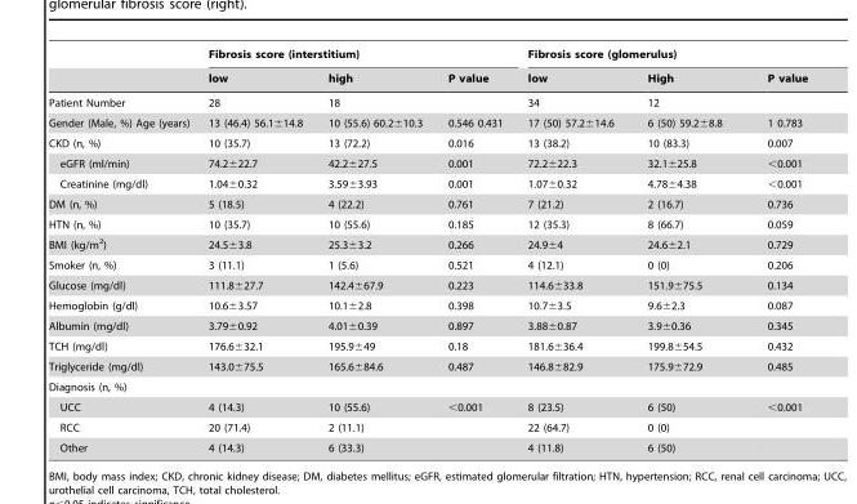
<table><thead><tr><td rowspan="2"></td><td colspan="3">Fibrosis score (interstitium)</td><td colspan="3">Fibrosis score (glomerulus)</td></tr><tr><td>low</td><td>high</td><td>P value</td><td>low</td><td>High</td><td>P value</td></tr></thead><tbody><tr><td>Patient Number</td><td>28</td><td>18</td><td></td><td>34</td><td>12</td><td></td></tr><tr><td>Gender (Male, %) Age (years)</td><td>13 (46.4) 56.1±14.8</td><td>10 (55.6) 60.2±10.3</td><td>0.546 0.431</td><td>17 (50) 57.2±14.6</td><td>6 (50) 59.2±8.8</td><td>1 0.783</td></tr><tr><td>CKD (n, %)</td><td>10 (35.7)</td><td>13 (72.2)</td><td>0.016</td><td>13 (38.2)</td><td>10 (83.3)</td><td>0.007</td></tr><tr><td>eGFR (ml/min)</td><td>74.2±22.7</td><td>42.2±27.5</td><td>0.001</td><td>72.2±22.3</td><td>32.1±25.8</td><td>&lt;0.001</td></tr><tr><td>Creatinine (mg/dl)</td><td>1.04±0.32</td><td>3.59±3.93</td><td>0.001</td><td>1.07±0.32</td><td>4.78±4.38</td><td>&lt;0.001</td></tr><tr><td>DM (n, %)</td><td>5 (18.5)</td><td>4 (22.2)</td><td>0.761</td><td>7 (21.2)</td><td>2 (16.7)</td><td>0.736</td></tr><tr><td>HTN (n, %)</td><td>10 (35.7)</td><td>10 (55.6)</td><td>0.185</td><td>12 (35.3)</td><td>8 (66.7)</td><td>0.059</td></tr><tr><td>BMI (kg/m<sup>2</sup>)</td><td>24.5±3.8</td><td>25.3±3.2</td><td>0.266</td><td>24.9±4</td><td>24.6±2.1</td><td>0.729</td></tr><tr><td>Smoker (n, %)</td><td>3 (11.1)</td><td>1 (5.6)</td><td>0.521</td><td>4 (12.1)</td><td>0 (0)</td><td>0.206</td></tr><tr><td>Glucose (mg/dl)</td><td>111.8±27.7</td><td>142.4±67.9</td><td>0.223</td><td>114.6±33.8</td><td>151.9±75.5</td><td>0.134</td></tr><tr><td>Hemoglobin (g/dl)</td><td>10.6±3.57</td><td>10.1±2.8</td><td>0.398</td><td>10.7±3.5</td><td>9.6±2.3</td><td>0.087</td></tr><tr><td>Albumin (mg/dl)</td><td>3.79±0.92</td><td>4.01±0.39</td><td>0.897</td><td>3.88±0.87</td><td>3.9±0.36</td><td>0.345</td></tr><tr><td>TCH (mg/dl)</td><td>176.6±32.1</td><td>195.9±49</td><td>0.18</td><td>181.6±36.4</td><td>199.8±54.5</td><td>0.432</td></tr><tr><td>Triglyceride (mg/dl)</td><td>143.0±75.5</td><td>165.6±84.6</td><td>0.487</td><td>146.8±82.9</td><td>175.9±72.9</td><td>0.485</td></tr><tr><td colspan="7">Diagnosis (n, %)</td></tr><tr><td>UCC</td><td>4 (14.3)</td><td>10 (55.6)</td><td>&lt;0.001</td><td>8 (23.5)</td><td>6 (50)</td><td>&lt;0.001</td></tr><tr><td>RCC</td><td>20 (71.4)</td><td>2 (11.1)</td><td></td><td>22 (64.7)</td><td>0 (0)</td><td></td></tr><tr><td>Other</td><td>4 (14.3)</td><td>6 (33.3)</td><td></td><td>4 (11.8)</td><td>6 (50)</td><td></td></tr></tbody></table>